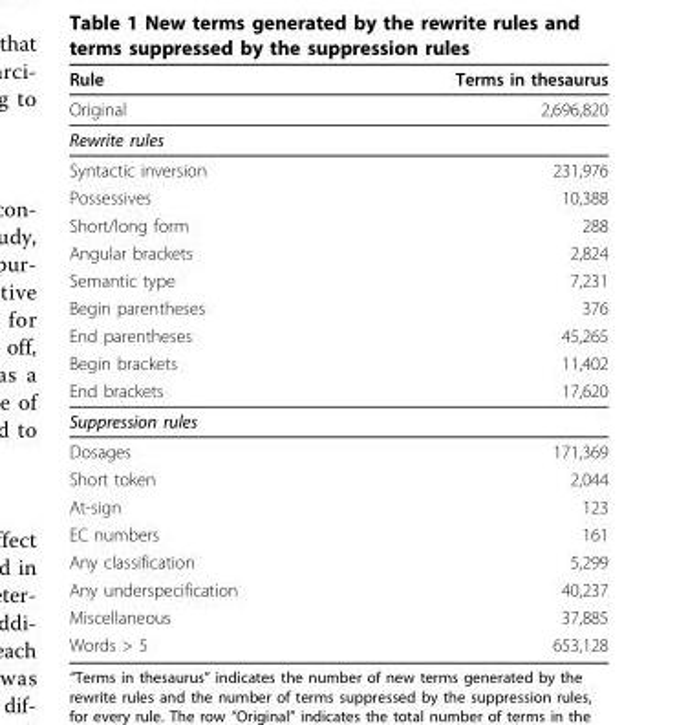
<table><thead><tr><td>Rule</td><td>Terms in thesaurus</td></tr></thead><tbody><tr><td>Original</td><td>2,696,820</td></tr><tr><td colspan="2">Rewrite rules</td></tr><tr><td>Syntactic inversion</td><td>231,976</td></tr><tr><td>Possessives</td><td>10,388</td></tr><tr><td>Short/long form</td><td>288</td></tr><tr><td>Angular brackets</td><td>2,824</td></tr><tr><td>Semantic type</td><td>7,231</td></tr><tr><td>Begin parentheses</td><td>376</td></tr><tr><td>End parentheses</td><td>45,265</td></tr><tr><td>Begin brackets</td><td>11,402</td></tr><tr><td>End brackets</td><td>17,620</td></tr><tr><td colspan="2">Suppression rules</td></tr><tr><td>Dosages</td><td>171,369</td></tr><tr><td>Short token</td><td>2,044</td></tr><tr><td>At-sign</td><td>123</td></tr><tr><td>EC numbers</td><td>161</td></tr><tr><td>Any classification</td><td>5,299</td></tr><tr><td>Any underspecification</td><td>40,237</td></tr><tr><td>Miscellaneous</td><td>37,885</td></tr><tr><td>Words &gt; 5</td><td>653,128</td></tr></tbody></table>